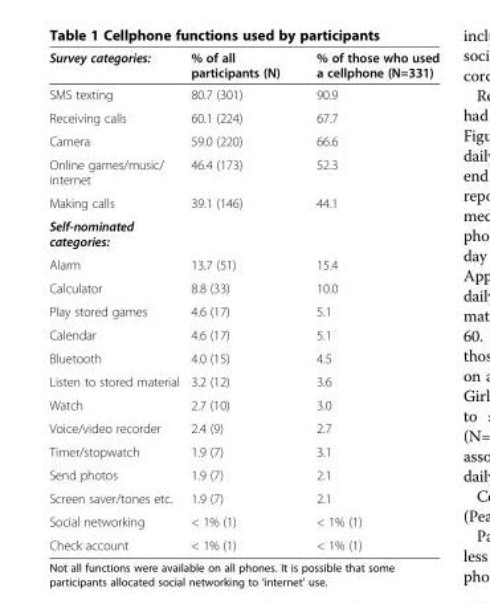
<table><thead><tr><td>Survey categories:</td><td>% of all participants (N)</td><td>% of those who used a cellphone (N=331)</td></tr></thead><tbody><tr><td>SMS texting</td><td>80.7 (301)</td><td>90.9</td></tr><tr><td>Receiving calls</td><td>60.1 (224)</td><td>67.7</td></tr><tr><td>Camera</td><td>59.0 (220)</td><td>66.6</td></tr><tr><td>Online games/music/ internet</td><td>46.4 (173)</td><td>52.3</td></tr><tr><td>Making calls</td><td>39.1 (146)</td><td>44.1</td></tr><tr><td colspan="3">Self-nominated categories:</td></tr><tr><td>Alarm</td><td>13.7 (51)</td><td>15.4</td></tr><tr><td>Calculator</td><td>8.8 (33)</td><td>10.0</td></tr><tr><td>Play stored games</td><td>4.6 (17)</td><td>5.1</td></tr><tr><td>Calendar</td><td>4.6 (17)</td><td>5.1</td></tr><tr><td>Bluetooth</td><td>4.0 (15)</td><td>4.5</td></tr><tr><td>Listen to stored material</td><td>3.2 (12)</td><td>3.6</td></tr><tr><td>Watch</td><td>2.7 (10)</td><td>3.0</td></tr><tr><td>Voice/video recorder</td><td>2.4 (9)</td><td>2.7</td></tr><tr><td>Timer/stopwatch</td><td>1.9 (7)</td><td>3.1</td></tr><tr><td>Send photos</td><td>1.9 (7)</td><td>2.1</td></tr><tr><td>Screen saver/tones etc.</td><td>1.9 (7)</td><td>2.1</td></tr><tr><td>Social networking</td><td>&lt; 1% (1)</td><td>&lt; 1% (1)</td></tr><tr><td>Check account</td><td>&lt; 1% (1)</td><td>&lt; 1% (1)</td></tr></tbody></table>